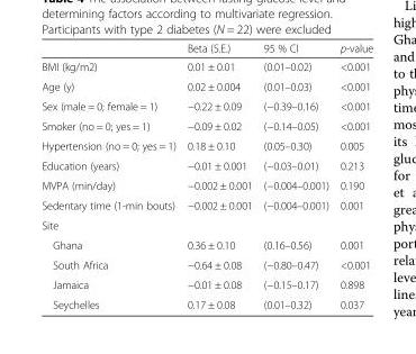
<table><thead><tr><td></td><td>Beta (S.E.)</td><td>95 % CI</td><td>p-value</td></tr></thead><tbody><tr><td>BMI (kg/m2)</td><td>0.01 ± 0.01</td><td>(0.01–0.02)</td><td>&lt;0.001</td></tr><tr><td>Age (y)</td><td>0.02 ± 0.004</td><td>(0.01–0.03)</td><td>&lt;0.001</td></tr><tr><td>Sex (male = 0; female = 1)</td><td>−0.22 ± 0.09</td><td>(−0.39–0.16)</td><td>&lt;0.001</td></tr><tr><td>Smoker (no = 0; yes = 1)</td><td>−0.09 ± 0.02</td><td>(−0.14–0.05)</td><td>&lt;0.001</td></tr><tr><td>Hypertension (no = 0; yes = 1)</td><td>0.18 ± 0.10</td><td>(0.05–0.30)</td><td>0.005</td></tr><tr><td>Education (years)</td><td>−0.01 ± 0.001</td><td>(−0.03–0.01)</td><td>0.213</td></tr><tr><td>MVPA (min/day)</td><td>−0.002 ± 0.001</td><td>(−0.004–0.001)</td><td>0.190</td></tr><tr><td>Sedentary time (1-min bouts)</td><td>−0.002 ± 0.001</td><td>(−0.004–0.001)</td><td>0.001</td></tr><tr><td colspan="4">Site</td></tr><tr><td>Ghana</td><td>0.36 ± 0.10</td><td>(0.16–0.56)</td><td>0.001</td></tr><tr><td>South Africa</td><td>−0.64 ± 0.08</td><td>(−0.80–0.47)</td><td>&lt;0.001</td></tr><tr><td>Jamaica</td><td>−0.01 ± 0.08</td><td>(−0.15–0.17)</td><td>0.898</td></tr><tr><td>Seychelles</td><td>0.17 ± 0.08</td><td>(0.01–0.32)</td><td>0.037</td></tr></tbody></table>